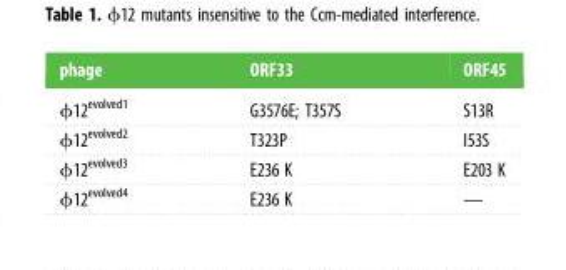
<table><thead><tr><td>phage</td><td>ORF33</td><td>ORF45</td></tr></thead><tbody><tr><td>ϕ12<sup>evolved1</sup></td><td>G3576E; T357S</td><td>S13R</td></tr><tr><td>ϕ12<sup>evolved2</sup></td><td>T323P</td><td>I53S</td></tr><tr><td>ϕ12<sup>evolved3</sup></td><td>E236 K</td><td>E203 K</td></tr><tr><td>ϕ12<sup>evolved4</sup></td><td>E236 K</td><td>—</td></tr></tbody></table>